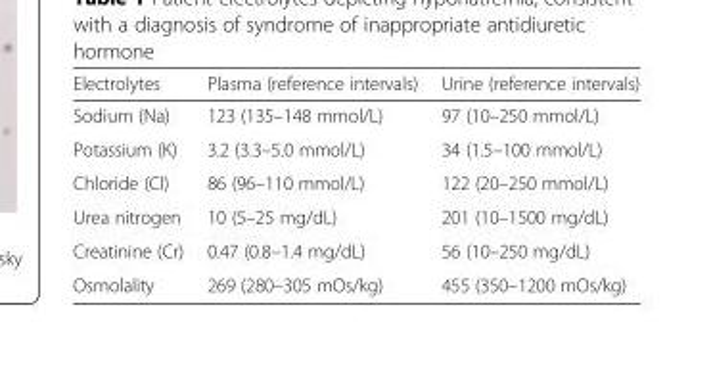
<table><thead><tr><td>Electrolytes</td><td>Plasma (reference intervals)</td><td>Urine (reference intervals)</td></tr></thead><tbody><tr><td>Sodium (Na)</td><td>123 (135–148 mmol/L)</td><td>97 (10–250 mmol/L)</td></tr><tr><td>Potassium (K)</td><td>3.2 (3.3–5.0 mmol/L)</td><td>34 (1.5–100 mmol/L)</td></tr><tr><td>Chloride (Cl)</td><td>86 (96–110 mmol/L)</td><td>122 (20–250 mmol/L)</td></tr><tr><td>Urea nitrogen</td><td>10 (5–25 mg/dL)</td><td>201 (10–1500 mg/dL)</td></tr><tr><td>Creatinine (Cr)</td><td>0.47 (0.8–1.4 mg/dL)</td><td>56 (10–250 mg/dL)</td></tr><tr><td>Osmolality</td><td>269 (280–305 mOs/kg)</td><td>455 (350–1200 mOs/kg)</td></tr></tbody></table>